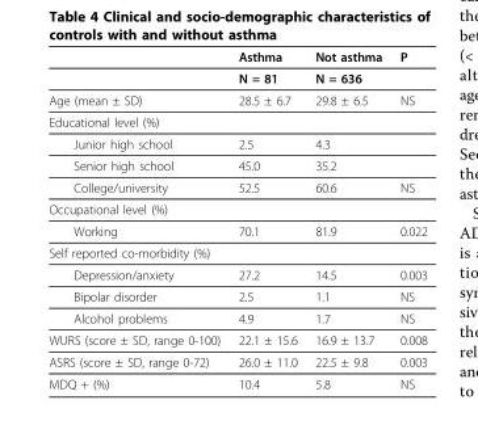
<table><thead><tr><td></td><td>Asthma</td><td>Not asthma</td><td>P</td></tr></thead><tbody><tr><td></td><td>N = 81</td><td>N = 636</td><td></td></tr><tr><td>Age (mean ± SD)</td><td>28.5 ± 6.7</td><td>29.8 ± 6.5</td><td>NS</td></tr><tr><td colspan="4">Educational level (%)</td></tr><tr><td>Junior high school</td><td>2.5</td><td>4.3</td><td></td></tr><tr><td>Senior high school</td><td>45.0</td><td>35.2</td><td></td></tr><tr><td>College/university</td><td>52.5</td><td>60.6</td><td>NS</td></tr><tr><td colspan="4">Occupational level (%)</td></tr><tr><td>Working</td><td>70.1</td><td>81.9</td><td>0.022</td></tr><tr><td colspan="4">Self reported co-morbidity (%)</td></tr><tr><td>Depression/anxiety</td><td>27.2</td><td>14.5</td><td>0.003</td></tr><tr><td>Bipolar disorder</td><td>2.5</td><td>1.1</td><td>NS</td></tr><tr><td>Alcohol problems</td><td>4.9</td><td>1.7</td><td>NS</td></tr><tr><td>WURS (score ± SD, range 0-100)</td><td>22.1 ± 15.6</td><td>16.9 ± 13.7</td><td>0.008</td></tr><tr><td>ASRS (score ± SD, range 0-72)</td><td>26.0 ± 11.0</td><td>22.5 ± 9.8</td><td>0.003</td></tr><tr><td>MDQ + (%)</td><td>10.4</td><td>5.8</td><td>NS</td></tr></tbody></table>